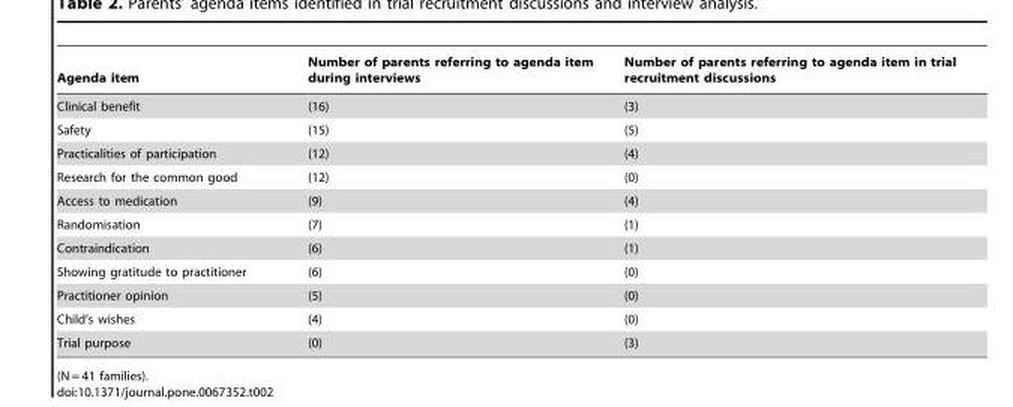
<table><thead><tr><td>Agenda item</td><td>Number of parents referring to agenda item during interviews</td><td>Number of parents referring to agenda item in trial recruitment discussions</td></tr></thead><tbody><tr><td>Clinical benefit</td><td>(16)</td><td>(3)</td></tr><tr><td>Safety</td><td>(15)</td><td>(5)</td></tr><tr><td>Practicalities of participation</td><td>(12)</td><td>(4)</td></tr><tr><td>Research for the common good</td><td>(12)</td><td>(0)</td></tr><tr><td>Access to medication</td><td>(9)</td><td>(4)</td></tr><tr><td>Randomisation</td><td>(7)</td><td>(1)</td></tr><tr><td>Contraindication</td><td>(6)</td><td>(1)</td></tr><tr><td>Showing gratitude to practitioner</td><td>(6)</td><td>(0)</td></tr><tr><td>Practitioner opinion</td><td>(5)</td><td>(0)</td></tr><tr><td>Child’s wishes</td><td>(4)</td><td>(0)</td></tr><tr><td>Trial purpose</td><td>(0)</td><td>(3)</td></tr></tbody></table>